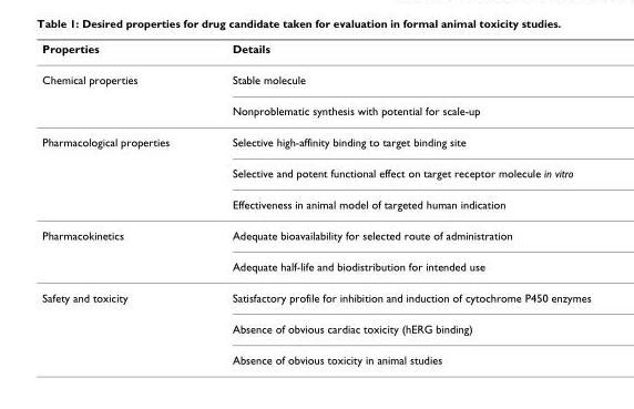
<table><thead><tr><td>Properties</td><td>Details</td></tr></thead><tbody><tr><td rowspan="2">Chemical properties</td><td>Stable molecule</td></tr><tr><td>Nonproblematic synthesis with potential for scale-up</td></tr><tr><td rowspan="3">Pharmacological properties</td><td>Selective high-affinity binding to target binding site</td></tr><tr><td>Selective and potent functional effect on target receptor molecule in vitro</td></tr><tr><td>Effectiveness in animal model of targeted human indication</td></tr><tr><td rowspan="2">Pharmacokinetics</td><td>Adequate bioavailability for selected route of administration</td></tr><tr><td>Adequate half-life and biodistribution for intended use</td></tr><tr><td rowspan="3">Safety and toxicity</td><td>Satisfactory profile for inhibition and induction of cytochrome P450 enzymes</td></tr><tr><td>Absence of obvious cardiac toxicity (hERG binding)</td></tr><tr><td>Absence of obvious toxicity in animal studies</td></tr></tbody></table>